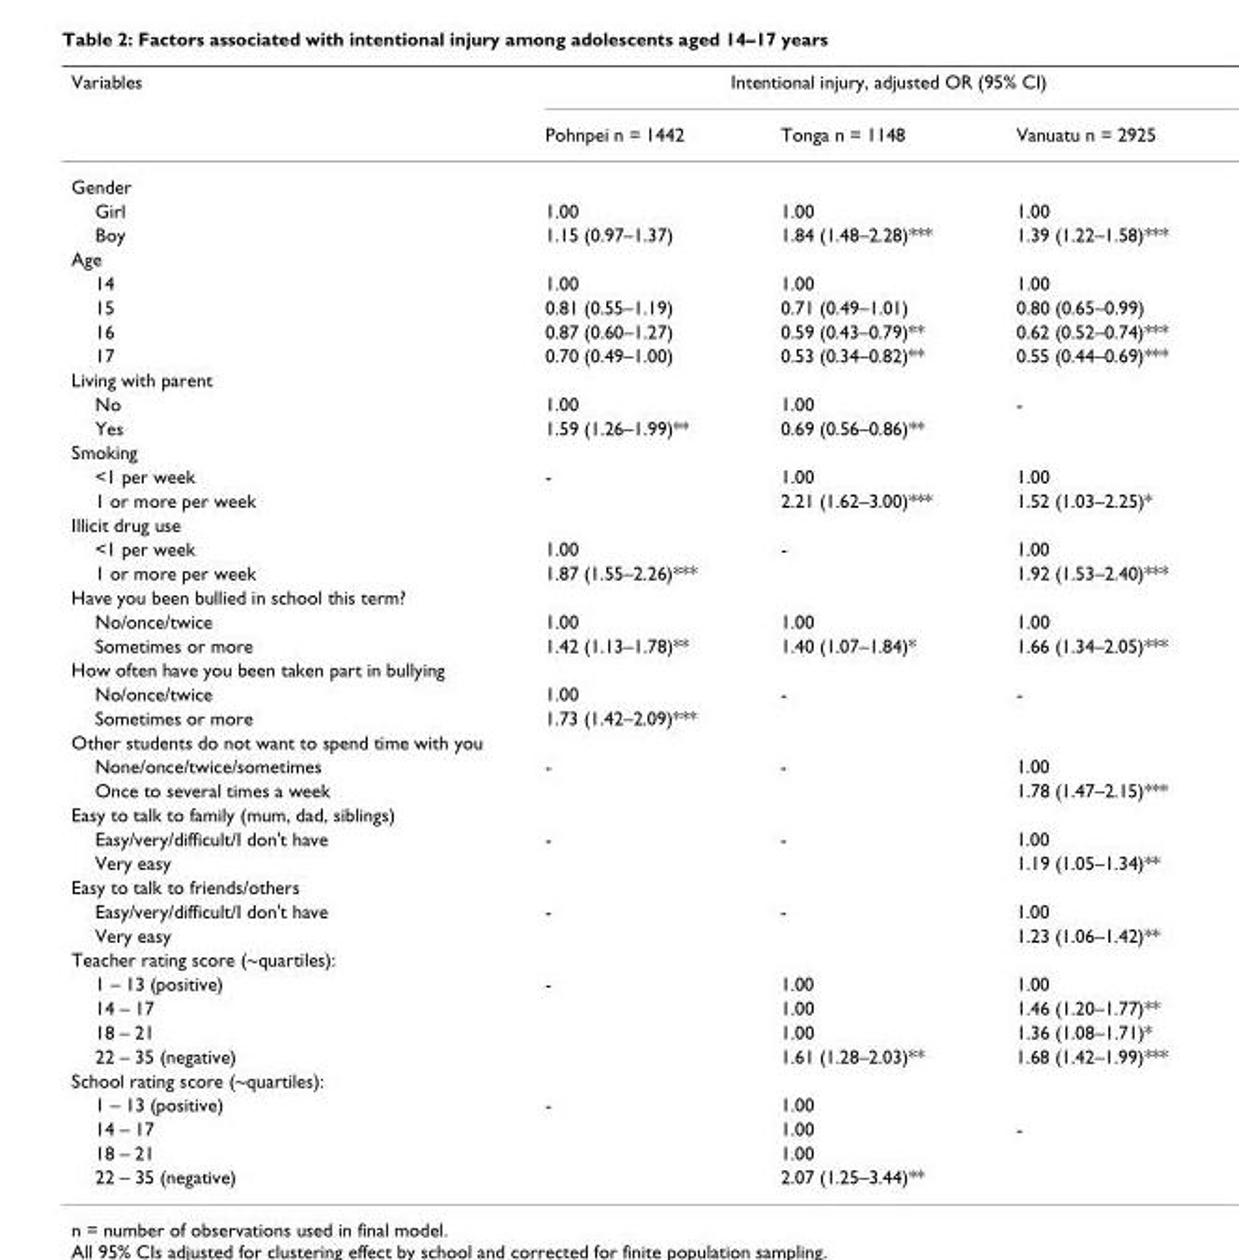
<table><thead><tr><td rowspan="2">Variables</td><td colspan="3">Intentional injury, adjusted OR (95% CI)</td></tr><tr><td>Pohnpei n = 1442</td><td>Tonga n = 1148</td><td>Vanuatu n = 2925</td></tr></thead><tbody><tr><td colspan="4">Gender</td></tr><tr><td>Girl</td><td>1.00</td><td>1.00</td><td>1.00</td></tr><tr><td>Boy</td><td>1.15 (0.97–1.37)</td><td>1.84 (1.48–2.28)***</td><td>1.39 (1.22–1.58)***</td></tr><tr><td colspan="4">Age</td></tr><tr><td>14</td><td>1.00</td><td>1.00</td><td>1.00</td></tr><tr><td>15</td><td>0.81 (0.55–1.19)</td><td>0.71 (0.49–1.01)</td><td>0.80 (0.65–0.99)</td></tr><tr><td>16</td><td>0.87 (0.60–1.27)</td><td>0.59 (0.43–0.79)**</td><td>0.62 (0.52–0.74)***</td></tr><tr><td>17</td><td>0.70 (0.49–1.00)</td><td>0.53 (0.34–0.82)**</td><td>0.55 (0.44–0.69)***</td></tr><tr><td colspan="4">Living with parent</td></tr><tr><td>No</td><td>1.00</td><td>1.00</td><td>-</td></tr><tr><td>Yes</td><td>1.59 (1.26–1.99)**</td><td>0.69 (0.56–0.86)**</td><td></td></tr><tr><td colspan="4">Smoking</td></tr><tr><td>&lt;1 per week</td><td>-</td><td>1.00</td><td>1.00</td></tr><tr><td>1 or more per week</td><td></td><td>2.21 (1.62–3.00)***</td><td>1.52 (1.03–2.25)*</td></tr><tr><td colspan="4">Illicit drug use</td></tr><tr><td>&lt;1 per week</td><td>1.00</td><td>-</td><td>1.00</td></tr><tr><td>1 or more per week</td><td>1.87 (1.55–2.26)***</td><td></td><td>1.92 (1.53–2.40)***</td></tr><tr><td colspan="4">Have you been bullied in school this term?</td></tr><tr><td>No/once/twice</td><td>1.00</td><td>1.00</td><td>1.00</td></tr><tr><td>Sometimes or more</td><td>1.42 (1.13–1.78)**</td><td>1.40 (1.07–1.84)*</td><td>1.66 (1.34–2.05)***</td></tr><tr><td colspan="4">How often have you been taken part in bullying</td></tr><tr><td>No/once/twice</td><td>1.00</td><td>-</td><td>-</td></tr><tr><td>Sometimes or more</td><td>1.73 (1.42–2.09)***</td><td></td><td></td></tr><tr><td colspan="4">Other students do not want to spend time with you</td></tr><tr><td>None/once/twice/sometimes</td><td>-</td><td>-</td><td>1.00</td></tr><tr><td>Once to several times a week</td><td></td><td></td><td>1.78 (1.47–2.15)***</td></tr><tr><td colspan="4">Easy to talk to family (mum, dad, siblings)</td></tr><tr><td>Easy/very/difficult/I don&#x27;t have</td><td>-</td><td>-</td><td>1.00</td></tr><tr><td>Very easy</td><td></td><td></td><td>1.19 (1.05–1.34)**</td></tr><tr><td colspan="4">Easy to talk to friends/others</td></tr><tr><td>Easy/very/difficult/I don&#x27;t have</td><td>-</td><td>-</td><td>1.00</td></tr><tr><td>Very easy</td><td></td><td></td><td>1.23 (1.06–1.42)**</td></tr><tr><td colspan="4">Teacher rating score (~quartiles):</td></tr><tr><td>1 – 13 (positive)</td><td>-</td><td>1.00</td><td>1.00</td></tr><tr><td>14 – 17</td><td></td><td>1.00</td><td>1.46 (1.20–1.77)**</td></tr><tr><td>18 – 21</td><td></td><td>1.00</td><td>1.36 (1.08–1.71)*</td></tr><tr><td>22 – 35 (negative)</td><td></td><td>1.61 (1.28–2.03)**</td><td>1.68 (1.42–1.99)***</td></tr><tr><td colspan="4">School rating score (~quartiles):</td></tr><tr><td>1 – 13 (positive)</td><td>-</td><td>1.00</td><td></td></tr><tr><td>14 – 17</td><td></td><td>1.00</td><td>-</td></tr><tr><td>18 – 21</td><td></td><td>1.00</td><td></td></tr><tr><td>22 – 35 (negative)</td><td></td><td>2.07 (1.25–3.44)**</td><td></td></tr></tbody></table>